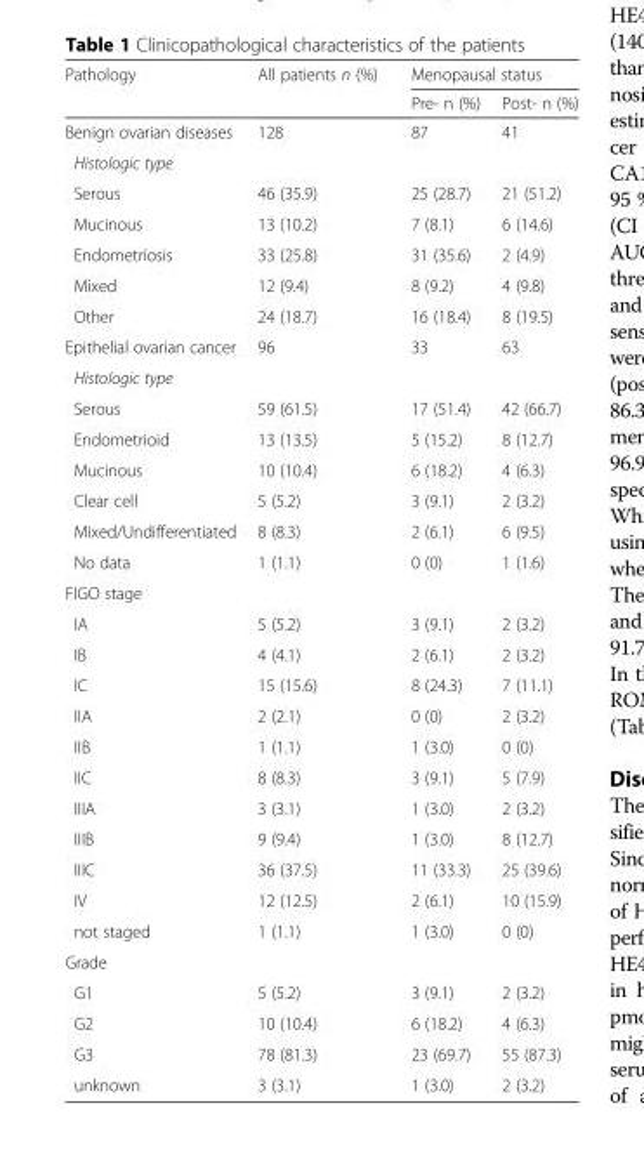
<table><thead><tr><td rowspan="2">Pathology</td><td rowspan="2">All patients n (%)</td><td colspan="2">Menopausal status</td></tr><tr><td>Pre- n (%)</td><td>Post- n (%)</td></tr></thead><tbody><tr><td>Benign ovarian diseases</td><td>128</td><td>87</td><td>41</td></tr><tr><td colspan="4">Histologic type</td></tr><tr><td>Serous</td><td>46 (35.9)</td><td>25 (28.7)</td><td>21 (51.2)</td></tr><tr><td>Mucinous</td><td>13 (10.2)</td><td>7 (8.1)</td><td>6 (14.6)</td></tr><tr><td>Endometriosis</td><td>33 (25.8)</td><td>31 (35.6)</td><td>2 (4.9)</td></tr><tr><td>Mixed</td><td>12 (9.4)</td><td>8 (9.2)</td><td>4 (9.8)</td></tr><tr><td>Other</td><td>24 (18.7)</td><td>16 (18.4)</td><td>8 (19.5)</td></tr><tr><td>Epithelial ovarian cancer</td><td>96</td><td>33</td><td>63</td></tr><tr><td colspan="4">Histologic type</td></tr><tr><td>Serous</td><td>59 (61.5)</td><td>17 (51.4)</td><td>42 (66.7)</td></tr><tr><td>Endometrioid</td><td>13 (13.5)</td><td>5 (15.2)</td><td>8 (12.7)</td></tr><tr><td>Mucinous</td><td>10 (10.4)</td><td>6 (18.2)</td><td>4 (6.3)</td></tr><tr><td>Clear cell</td><td>5 (5.2)</td><td>3 (9.1)</td><td>2 (3.2)</td></tr><tr><td>Mixed/Undifferentiated</td><td>8 (8.3)</td><td>2 (6.1)</td><td>6 (9.5)</td></tr><tr><td>No data</td><td>1 (1.1)</td><td>0 (0)</td><td>1 (1.6)</td></tr><tr><td colspan="4">FIGO stage</td></tr><tr><td>IA</td><td>5 (5.2)</td><td>3 (9.1)</td><td>2 (3.2)</td></tr><tr><td>IB</td><td>4 (4.1)</td><td>2 (6.1)</td><td>2 (3.2)</td></tr><tr><td>IC</td><td>15 (15.6)</td><td>8 (24.3)</td><td>7 (11.1)</td></tr><tr><td>IIA</td><td>2 (2.1)</td><td>0 (0)</td><td>2 (3.2)</td></tr><tr><td>IIB</td><td>1 (1.1)</td><td>1 (3.0)</td><td>0 (0)</td></tr><tr><td>IIC</td><td>8 (8.3)</td><td>3 (9.1)</td><td>5 (7.9)</td></tr><tr><td>IIIA</td><td>3 (3.1)</td><td>1 (3.0)</td><td>2 (3.2)</td></tr><tr><td>IIIB</td><td>9 (9.4)</td><td>1 (3.0)</td><td>8 (12.7)</td></tr><tr><td>IIIC</td><td>36 (37.5)</td><td>11 (33.3)</td><td>25 (39.6)</td></tr><tr><td>IV</td><td>12 (12.5)</td><td>2 (6.1)</td><td>10 (15.9)</td></tr><tr><td>not staged</td><td>1 (1.1)</td><td>1 (3.0)</td><td>0 (0)</td></tr><tr><td colspan="4">Grade</td></tr><tr><td>G1</td><td>5 (5.2)</td><td>3 (9.1)</td><td>2 (3.2)</td></tr><tr><td>G2</td><td>10 (10.4)</td><td>6 (18.2)</td><td>4 (6.3)</td></tr><tr><td>G3</td><td>78 (81.3)</td><td>23 (69.7)</td><td>55 (87.3)</td></tr><tr><td>unknown</td><td>3 (3.1)</td><td>1 (3.0)</td><td>2 (3.2)</td></tr></tbody></table>